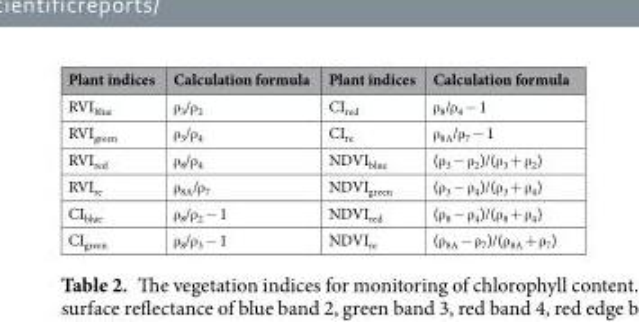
<table><thead><tr><td>Plant indices</td><td>Calculation formula</td><td>Plant indices</td><td>Calculation formula</td></tr></thead><tbody><tr><td>RVI<sub>blue</sub></td><td>ρ<sub>3</sub>/ρ<sub>2</sub></td><td>CI<sub>red</sub></td><td>ρ<sub>8</sub>/ρ<sub>4</sub> − 1</td></tr><tr><td>RVI<sub>green</sub></td><td>ρ<sub>3</sub>/ρ<sub>4</sub></td><td>CI<sub>re</sub></td><td>ρ<sub>8A</sub>/ρ<sub>7</sub> − 1</td></tr><tr><td>RVI<sub>red</sub></td><td>ρ<sub>8</sub>/ρ<sub>4</sub></td><td>NDVI<sub>blue</sub></td><td>(ρ<sub>3</sub> − ρ<sub>2</sub>)/(ρ<sub>3</sub> + ρ<sub>2</sub>)</td></tr><tr><td>RVI<sub>re</sub></td><td>ρ<sub>8A</sub>/ρ<sub>7</sub></td><td>NDVI<sub>green</sub></td><td>(ρ<sub>3</sub> − ρ<sub>4</sub>)/(ρ<sub>3</sub> + ρ<sub>4</sub>)</td></tr><tr><td>CI<sub>blue</sub></td><td>ρ<sub>8</sub>/ρ<sub>2</sub> − 1</td><td>NDVI<sub>red</sub></td><td>(ρ<sub>8</sub> − ρ<sub>4</sub>)/(ρ<sub>8</sub> + ρ<sub>4</sub>)</td></tr><tr><td>CI<sub>green</sub></td><td>ρ<sub>8</sub>/ρ<sub>3</sub> − 1</td><td>NDVI<sub>re</sub></td><td>(ρ<sub>8A</sub> − ρ<sub>7</sub>)/(ρ<sub>8A</sub> + ρ<sub>7</sub>)</td></tr></tbody></table>